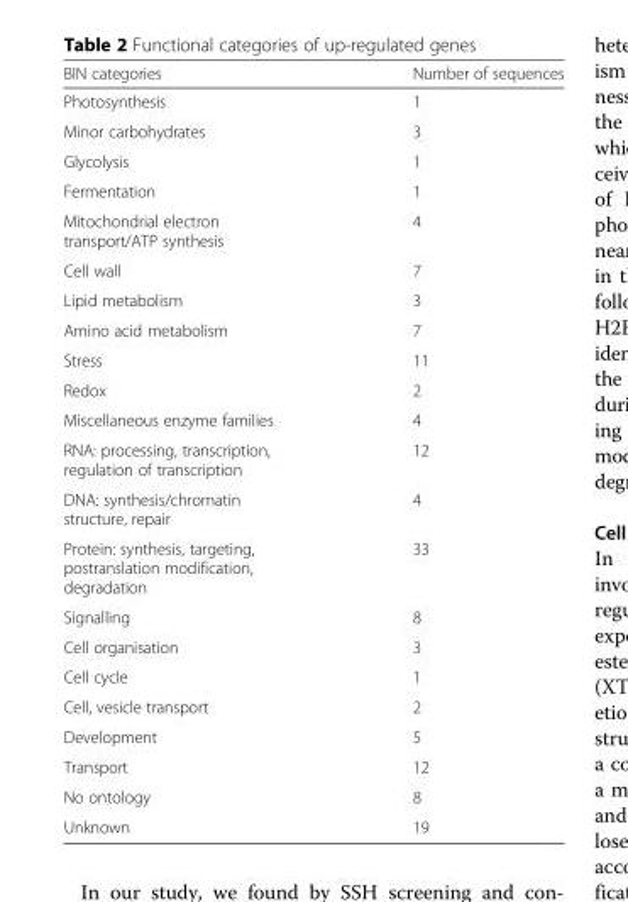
<table><thead><tr><td>BIN categories</td><td>Number of sequences</td></tr></thead><tbody><tr><td>Photosynthesis</td><td>1</td></tr><tr><td>Minor carbohydrates</td><td>3</td></tr><tr><td>Glycolysis</td><td>1</td></tr><tr><td>Fermentation</td><td>1</td></tr><tr><td>Mitochondrial electron transport/ATP synthesis</td><td>4</td></tr><tr><td>Cell wall</td><td>7</td></tr><tr><td>Lipid metabolism</td><td>3</td></tr><tr><td>Amino acid metabolism</td><td>7</td></tr><tr><td>Stress</td><td>11</td></tr><tr><td>Redox</td><td>2</td></tr><tr><td>Miscellaneous enzyme families</td><td>4</td></tr><tr><td>RNA: processing, transcription, regulation of transcription</td><td>12</td></tr><tr><td>DNA: synthesis/chromatin structure, repair</td><td>4</td></tr><tr><td>Protein: synthesis, targeting, postranslation modification, degradation</td><td>33</td></tr><tr><td>Signalling</td><td>8</td></tr><tr><td>Cell organisation</td><td>3</td></tr><tr><td>Cell cycle</td><td>1</td></tr><tr><td>Cell, vesicle transport</td><td>2</td></tr><tr><td>Development</td><td>5</td></tr><tr><td>Transport</td><td>12</td></tr><tr><td>No ontology</td><td>8</td></tr><tr><td>Unknown</td><td>19</td></tr></tbody></table>